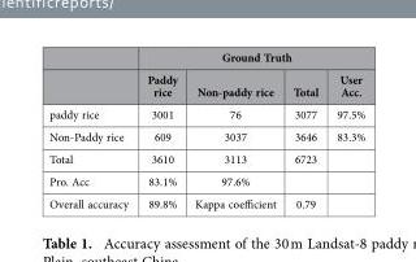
<table><thead><tr><td rowspan="2"></td><td colspan="4">Ground Truth</td></tr><tr><td>Paddy rice</td><td>Non-paddy rice</td><td>Total</td><td>User Acc.</td></tr></thead><tbody><tr><td>paddy rice</td><td>3001</td><td>76</td><td>3077</td><td>97.5%</td></tr><tr><td>Non-Paddy rice</td><td>609</td><td>3037</td><td>3646</td><td>83.3%</td></tr><tr><td>Total</td><td>3610</td><td>3113</td><td>6723</td><td></td></tr><tr><td>Pro. Acc</td><td>83.1%</td><td>97.6%</td><td></td><td></td></tr><tr><td>Overall accuracy</td><td>89.8%</td><td>Kappa coefficient</td><td>0.79</td><td></td></tr></tbody></table>